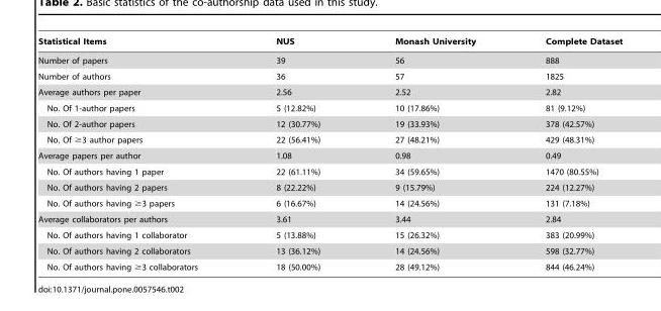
<table><thead><tr><td>Statistical Items</td><td>NUS</td><td>Monash University</td><td>Complete Dataset</td></tr></thead><tbody><tr><td>Number of papers</td><td>39</td><td>56</td><td>888</td></tr><tr><td>Number of authors</td><td>36</td><td>57</td><td>1825</td></tr><tr><td>Average authors per paper</td><td>2.56</td><td>2.52</td><td>2.82</td></tr><tr><td>No. Of 1-author papers</td><td>5 (12.82%)</td><td>10 (17.86%)</td><td>81 (9.12%)</td></tr><tr><td>No. Of 2-author papers</td><td>12 (30.77%)</td><td>19 (33.93%)</td><td>378 (42.57%)</td></tr><tr><td>No. Of ≥3 author papers</td><td>22 (56.41%)</td><td>27 (48.21%)</td><td>429 (48.31%)</td></tr><tr><td>Average papers per author</td><td>1.08</td><td>0.98</td><td>0.49</td></tr><tr><td>No. Of authors having 1 paper</td><td>22 (61.11%)</td><td>34 (59.65%)</td><td>1470 (80.55%)</td></tr><tr><td>No. Of authors having 2 papers</td><td>8 (22.22%)</td><td>9 (15.79%)</td><td>224 (12.27%)</td></tr><tr><td>No. Of authors having ≥3 papers</td><td>6 (16.67%)</td><td>14 (24.56%)</td><td>131 (7.18%)</td></tr><tr><td>Average collaborators per authors</td><td>3.61</td><td>3.44</td><td>2.84</td></tr><tr><td>No. Of authors having 1 collaborator</td><td>5 (13.88%)</td><td>15 (26.32%)</td><td>383 (20.99%)</td></tr><tr><td>No. Of authors having 2 collaborators</td><td>13 (36.12%)</td><td>14 (24.56%)</td><td>598 (32.77%)</td></tr><tr><td>No. Of authors having ≥3 collaborators</td><td>18 (50.00%)</td><td>28 (49.12%)</td><td>844 (46.24%)</td></tr></tbody></table>